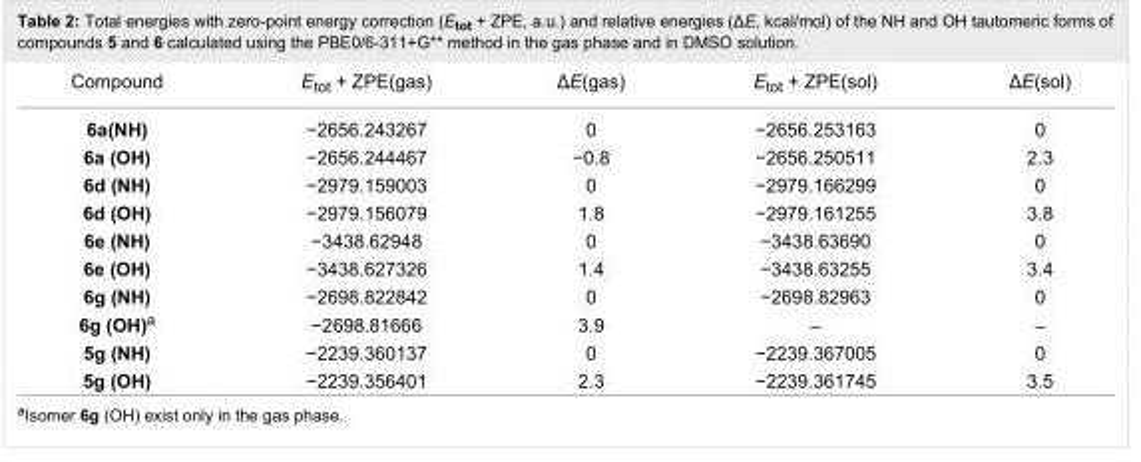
<table><tbody><tr><td>Compound</td><td>E<sub>tot</sub> + ZPE(gas)</td><td>ΔE(gas)</td><td>E<sub>tot</sub> + ZPE(sol)</td><td>ΔE(sol)</td></tr><tr><td>6a(NH)</td><td>−2656.243267</td><td>0</td><td>−2656.253163</td><td>0</td></tr><tr><td>6a (OH)</td><td>−2656.244467</td><td>−0.8</td><td>−2656.250511</td><td>2.3</td></tr><tr><td>6d (NH)</td><td>−2979.159003</td><td>0</td><td>−2979.166299</td><td>0</td></tr><tr><td>6d (OH)</td><td>−2979.156079</td><td>1.8</td><td>−2979.161255</td><td>3.8</td></tr><tr><td>6e (NH)</td><td>−3438.62948</td><td>0</td><td>−3438.63690</td><td>0</td></tr><tr><td>6e (OH)</td><td>−3438.627326</td><td>1.4</td><td>−3438.63255</td><td>3.4</td></tr><tr><td>6g (NH)</td><td>−2698.822842</td><td>0</td><td>−2698.82963</td><td>0</td></tr><tr><td>6g (OH)<sup>a</sup></td><td>−2698.81666</td><td>3.9</td><td>–</td><td>–</td></tr><tr><td>5g (NH)</td><td>−2239.360137</td><td>0</td><td>−2239.367005</td><td>0</td></tr><tr><td>5g (OH)</td><td>−2239.356401</td><td>2.3</td><td>−2239.361745</td><td>3.5</td></tr></tbody></table>